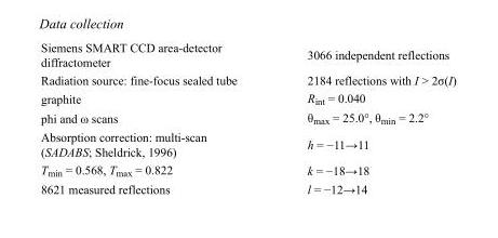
<table><tbody><tr><td>Siemens SMART CCD area-detector diffractometer</td><td>3066 independent reflections</td></tr><tr><td>Radiation source: fine-focus sealed tube</td><td>2184 reflections with I &gt; 2σ(I)</td></tr><tr><td>graphite</td><td>R<sub>int</sub> = 0.040</td></tr><tr><td>phi and ω scans</td><td>θ<sub>max</sub> = 25.0°, θ<sub>min</sub> = 2.2°</td></tr><tr><td>Absorption correction: multi-scan (SADABS; Sheldrick, 1996)</td><td>h = −11→11</td></tr><tr><td>T<sub>min</sub> = 0.568, T<sub>max</sub> = 0.822</td><td>k = −18→18</td></tr><tr><td>8621 measured reflections</td><td>l = −12→14</td></tr></tbody></table>